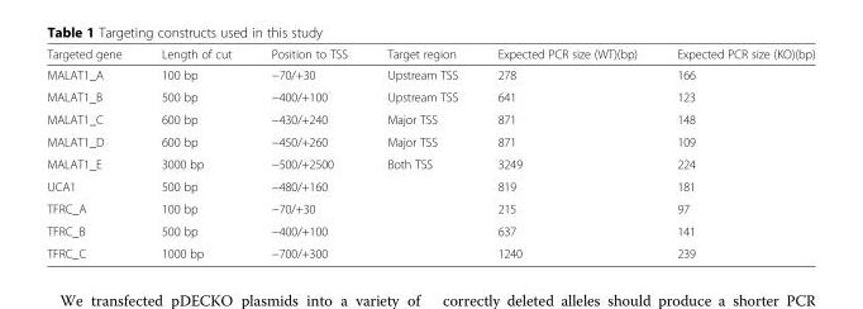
<table><thead><tr><td>Targeted gene</td><td>Length of cut</td><td>Position to TSS</td><td>Target region</td><td>Expected PCR size (WT)(bp)</td><td>Expected PCR size (KO)(bp)</td></tr></thead><tbody><tr><td>MALAT1_A</td><td>100 bp</td><td>−70/+30</td><td>Upstream TSS</td><td>278</td><td>166</td></tr><tr><td>MALAT1_B</td><td>500 bp</td><td>−400/+100</td><td>Upstream TSS</td><td>641</td><td>123</td></tr><tr><td>MALAT1_C</td><td>600 bp</td><td>−430/+240</td><td>Major TSS</td><td>871</td><td>148</td></tr><tr><td>MALAT1_D</td><td>600 bp</td><td>−450/+260</td><td>Major TSS</td><td>871</td><td>109</td></tr><tr><td>MALAT1_E</td><td>3000 bp</td><td>−500/+2500</td><td>Both TSS</td><td>3249</td><td>224</td></tr><tr><td>UCA1</td><td>500 bp</td><td>−480/+160</td><td></td><td>819</td><td>181</td></tr><tr><td>TFRC_A</td><td>100 bp</td><td>−70/+30</td><td></td><td>215</td><td>97</td></tr><tr><td>TFRC_B</td><td>500 bp</td><td>−400/+100</td><td></td><td>637</td><td>141</td></tr><tr><td>TFRC_C</td><td>1000 bp</td><td>−700/+300</td><td></td><td>1240</td><td>239</td></tr></tbody></table>